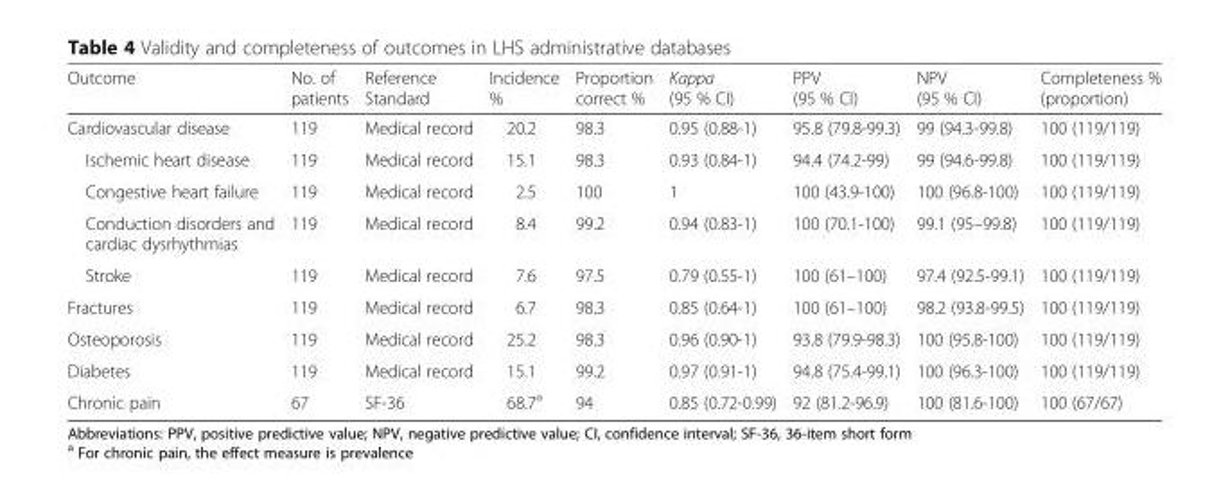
<table><thead><tr><td>Outcome</td><td>No. of patients</td><td>Reference Standard</td><td>Incidence %</td><td>Proportion correct %</td><td>Kappa (95 % CI)</td><td>PPV (95 % CI)</td><td>NPV (95 % CI)</td><td>Completeness % (proportion)</td></tr></thead><tbody><tr><td>Cardiovascular disease</td><td>119</td><td>Medical record</td><td>20.2</td><td>98.3</td><td>0.95 (0.88-1)</td><td>95.8 (79.8-99.3)</td><td>99 (94.3-99.8)</td><td>100 (119/119)</td></tr><tr><td>Ischemic heart disease</td><td>119</td><td>Medical record</td><td>15.1</td><td>98.3</td><td>0.93 (0.84-1)</td><td>94.4 (74.2-99)</td><td>99 (94.6-99.8)</td><td>100 (119/119)</td></tr><tr><td>Congestive heart failure</td><td>119</td><td>Medical record</td><td>2.5</td><td>100</td><td>1</td><td>100 (43.9-100)</td><td>100 (96.8-100)</td><td>100 (119/119)</td></tr><tr><td>Conduction disorders and cardiac dysrhythmias</td><td>119</td><td>Medical record</td><td>8.4</td><td>99.2</td><td>0.94 (0.83-1)</td><td>100 (70.1-100)</td><td>99.1 (95–99.8)</td><td>100 (119/119)</td></tr><tr><td>Stroke</td><td>119</td><td>Medical record</td><td>7.6</td><td>97.5</td><td>0.79 (0.55-1)</td><td>100 (61–100)</td><td>97.4 (92.5-99.1)</td><td>100 (119/119)</td></tr><tr><td>Fractures</td><td>119</td><td>Medical record</td><td>6.7</td><td>98.3</td><td>0.85 (0.64-1)</td><td>100 (61–100)</td><td>98.2 (93.8-99.5)</td><td>100 (119/119)</td></tr><tr><td>Osteoporosis</td><td>119</td><td>Medical record</td><td>25.2</td><td>98.3</td><td>0.96 (0.90-1)</td><td>93.8 (79.9-98.3)</td><td>100 (95.8-100)</td><td>100 (119/119)</td></tr><tr><td>Diabetes</td><td>119</td><td>Medical record</td><td>15.1</td><td>99.2</td><td>0.97 (0.91-1)</td><td>94.8 (75.4-99.1)</td><td>100 (96.3-100)</td><td>100 (119/119)</td></tr><tr><td>Chronic pain</td><td>67</td><td>SF-36</td><td>68.7<sup>a</sup></td><td>94</td><td>0.85 (0.72-0.99)</td><td>92 (81.2-96.9)</td><td>100 (81.6-100)</td><td>100 (67/67)</td></tr></tbody></table>